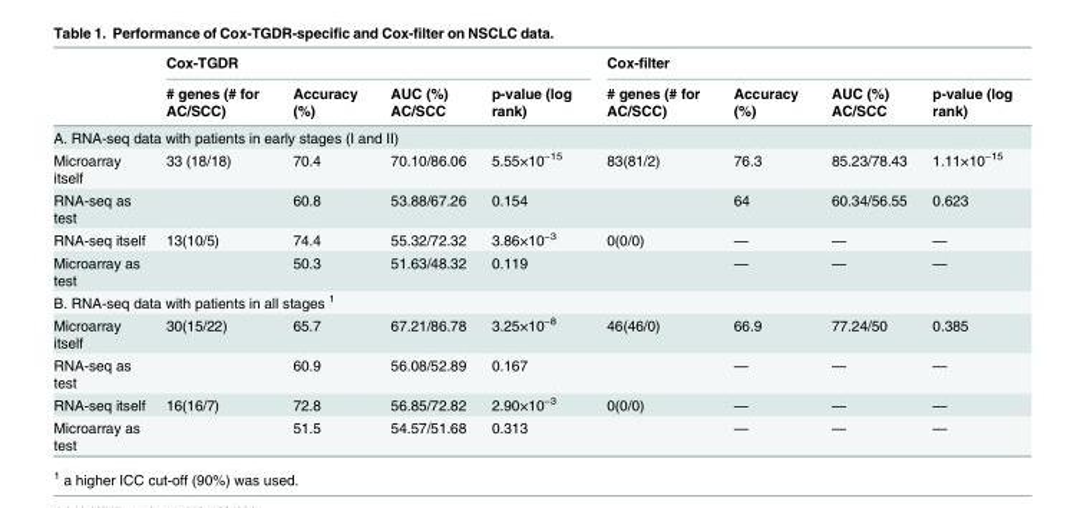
<table><thead><tr><td rowspan="2"></td><td colspan="4">Cox-TGDR</td><td colspan="4">Cox-filter</td></tr><tr><td># genes (# for AC/SCC)</td><td>Accuracy (%)</td><td>AUC (%) AC/SCC</td><td>p-value (log rank)</td><td># genes (# for AC/SCC)</td><td>Accuracy (%)</td><td>AUC (%) AC/SCC</td><td>p-value (log rank)</td></tr></thead><tbody><tr><td colspan="9">A. RNA-seq data with patients in early stages (I and II)</td></tr><tr><td>Microarray itself</td><td>33 (18/18)</td><td>70.4</td><td>70.10/86.06</td><td>5.55×10<sup>−15</sup></td><td>83(81/2)</td><td>76.3</td><td>85.23/78.43</td><td>1.11×10<sup>−15</sup></td></tr><tr><td>RNA-seq as test</td><td></td><td>60.8</td><td>53.88/67.26</td><td>0.154</td><td></td><td>64</td><td>60.34/56.55</td><td>0.623</td></tr><tr><td>RNA-seq itself</td><td>13(10/5)</td><td>74.4</td><td>55.32/72.32</td><td>3.86×10<sup>−3</sup></td><td>0(0/0)</td><td>—</td><td>—</td><td>—</td></tr><tr><td>Microarray as test</td><td></td><td>50.3</td><td>51.63/48.32</td><td>0.119</td><td></td><td>—</td><td>—</td><td>—</td></tr><tr><td colspan="9">B. RNA-seq data with patients in all stages <sup>1</sup></td></tr><tr><td>Microarray itself</td><td>30(15/22)</td><td>65.7</td><td>67.21/86.78</td><td>3.25×10<sup>−8</sup></td><td>46(46/0)</td><td>66.9</td><td>77.24/50</td><td>0.385</td></tr><tr><td>RNA-seq as test</td><td></td><td>60.9</td><td>56.08/52.89</td><td>0.167</td><td></td><td>—</td><td>—</td><td>—</td></tr><tr><td>RNA-seq itself</td><td>16(16/7)</td><td>72.8</td><td>56.85/72.82</td><td>2.90×10<sup>−3</sup></td><td>0(0/0)</td><td>—</td><td>—</td><td>—</td></tr><tr><td>Microarray as test</td><td></td><td>51.5</td><td>54.57/51.68</td><td>0.313</td><td></td><td>—</td><td>—</td><td>—</td></tr></tbody></table>